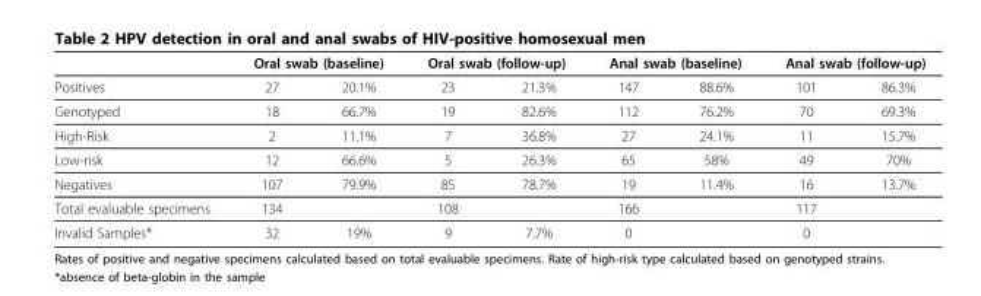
<table><thead><tr><td rowspan="2">Positives</td><td colspan="2">Oral swab (baseline)</td><td colspan="2">Oral swab (follow-up)</td><td colspan="2">Anal swab (baseline)</td><td colspan="2">Anal swab (follow-up)</td></tr><tr><td>27</td><td>20.1%</td><td>23</td><td>21.3%</td><td>147</td><td>88.6%</td><td>101</td><td>86.3%</td></tr></thead><tbody><tr><td>Genotyped</td><td>18</td><td>66.7%</td><td>19</td><td>82.6%</td><td>112</td><td>76.2%</td><td>70</td><td>69.3%</td></tr><tr><td>High-Risk</td><td>2</td><td>11.1%</td><td>7</td><td>36.8%</td><td>27</td><td>24.1%</td><td>11</td><td>15.7%</td></tr><tr><td>Low-risk</td><td>12</td><td>66.6%</td><td>5</td><td>26.3%</td><td>65</td><td>58%</td><td>49</td><td>70%</td></tr><tr><td>Negatives</td><td>107</td><td>79.9%</td><td>85</td><td>78.7%</td><td>19</td><td>11.4%</td><td>16</td><td>13.7%</td></tr><tr><td>Total evaluable specimens</td><td>134</td><td></td><td>108</td><td></td><td>166</td><td></td><td>117</td><td></td></tr><tr><td>Invalid Samples*</td><td>32</td><td>19%</td><td>9</td><td>7.7%</td><td>0</td><td></td><td>0</td><td></td></tr></tbody></table>